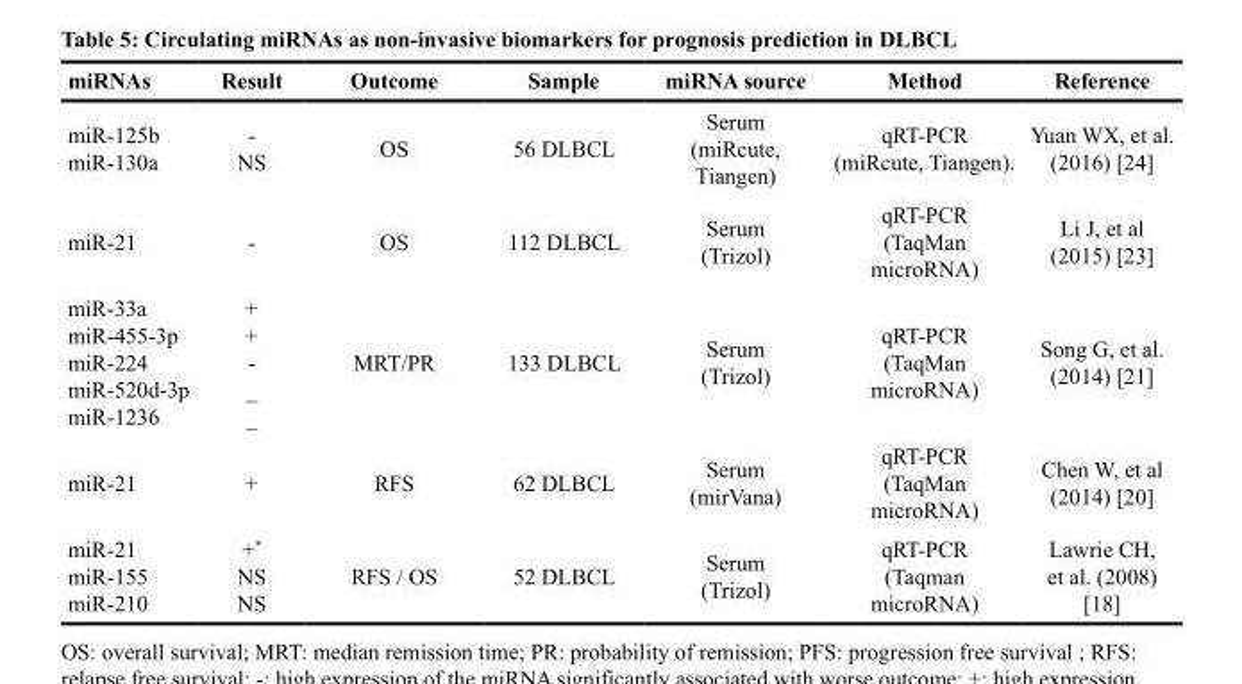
<table><thead><tr><td>miRNAs</td><td>Result</td><td>Outcome</td><td>Sample</td><td>miRNA source</td><td>Method</td><td>Reference</td></tr></thead><tbody><tr><td>miR-125b miR-130a</td><td>- NS</td><td>OS</td><td>56 DLBCL</td><td>Serum (miRcute, Tiangen)</td><td>qRT-PCR (miRcute, Tiangen).</td><td>Yuan WX, et al. (2016) [24]</td></tr><tr><td>miR-21</td><td>-</td><td>OS</td><td>112 DLBCL</td><td>Serum (Trizol)</td><td>qRT-PCR (TaqMan microRNA)</td><td>Li J, et al (2015) [23]</td></tr><tr><td>miR-33a miR-455-3p miR-224 miR-520d-3p miR-1236</td><td>+ + - _ _</td><td>MRT/PR</td><td>133 DLBCL</td><td>Serum (Trizol)</td><td>qRT-PCR (TaqMan microRNA)</td><td>Song G, et al. (2014) [21]</td></tr><tr><td>miR-21</td><td>+</td><td>RFS</td><td>62 DLBCL</td><td>Serum (mirVana)</td><td>qRT-PCR (TaqMan microRNA)</td><td>Chen W, et al (2014) [20]</td></tr><tr><td>miR-21 miR-155 miR-210</td><td>+* NS NS</td><td>RFS / OS</td><td>52 DLBCL</td><td>Serum (Trizol)</td><td>qRT-PCR (Taqman microRNA)</td><td>Lawrie CH, et al. (2008) [18]</td></tr></tbody></table>